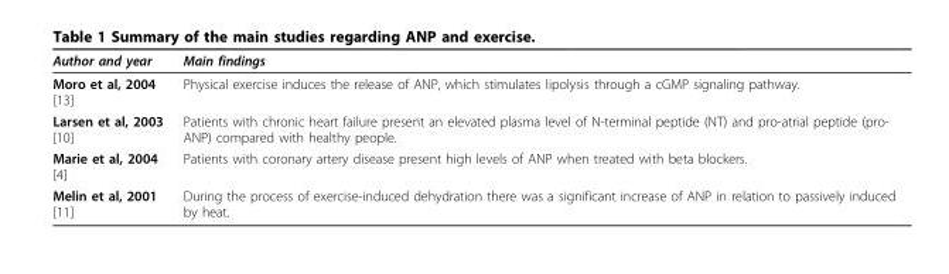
<table><thead><tr><td>Author and year</td><td>Main findings</td></tr></thead><tbody><tr><td>Moro et al, 2004 [13]</td><td>Physical exercise induces the release of ANP, which stimulates lipolysis through a cGMP signaling pathway.</td></tr><tr><td>Larsen et al, 2003 [10]</td><td>Patients with chronic heart failure present an elevated plasma level of N-terminal peptide (NT) and pro-atrial peptide (pro- ANP) compared with healthy people.</td></tr><tr><td>Marie et al, 2004 [4]</td><td>Patients with coronary artery disease present high levels of ANP when treated with beta blockers.</td></tr><tr><td>Melin et al, 2001 [11]</td><td>During the process of exercise-induced dehydration there was a significant increase of ANP in relation to passively induced by heat.</td></tr></tbody></table>